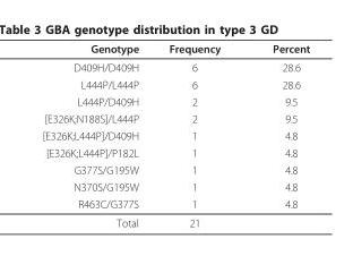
<table><thead><tr><td>Genotype</td><td>Frequency</td><td>Percent</td></tr></thead><tbody><tr><td>D409H/D409H</td><td>6</td><td>28.6</td></tr><tr><td>L444P/L444P</td><td>6</td><td>28.6</td></tr><tr><td>L444P/D409H</td><td>2</td><td>9.5</td></tr><tr><td>[E326K;N188S]/L444P</td><td>2</td><td>9.5</td></tr><tr><td>[E326K;L444P]/D409H</td><td>1</td><td>4.8</td></tr><tr><td>[E326K;L444P]/P182L</td><td>1</td><td>4.8</td></tr><tr><td>G377S/G195W</td><td>1</td><td>4.8</td></tr><tr><td>N370S/G195W</td><td>1</td><td>4.8</td></tr><tr><td>R463C/G377S</td><td>1</td><td>4.8</td></tr><tr><td>Total</td><td>21</td><td></td></tr></tbody></table>